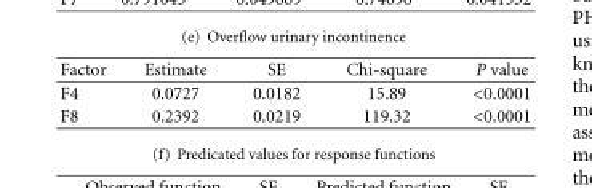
<table><thead><tr><td>Factor</td><td>Estimate</td><td>SE</td><td>Chi-square</td><td>P value</td></tr></thead><tbody><tr><td>F4</td><td>0.0727</td><td>0.0182</td><td>15.89</td><td>&lt;0.0001</td></tr><tr><td>F8</td><td>0.2392</td><td>0.0219</td><td>119.32</td><td>&lt;0.0001</td></tr></tbody></table>